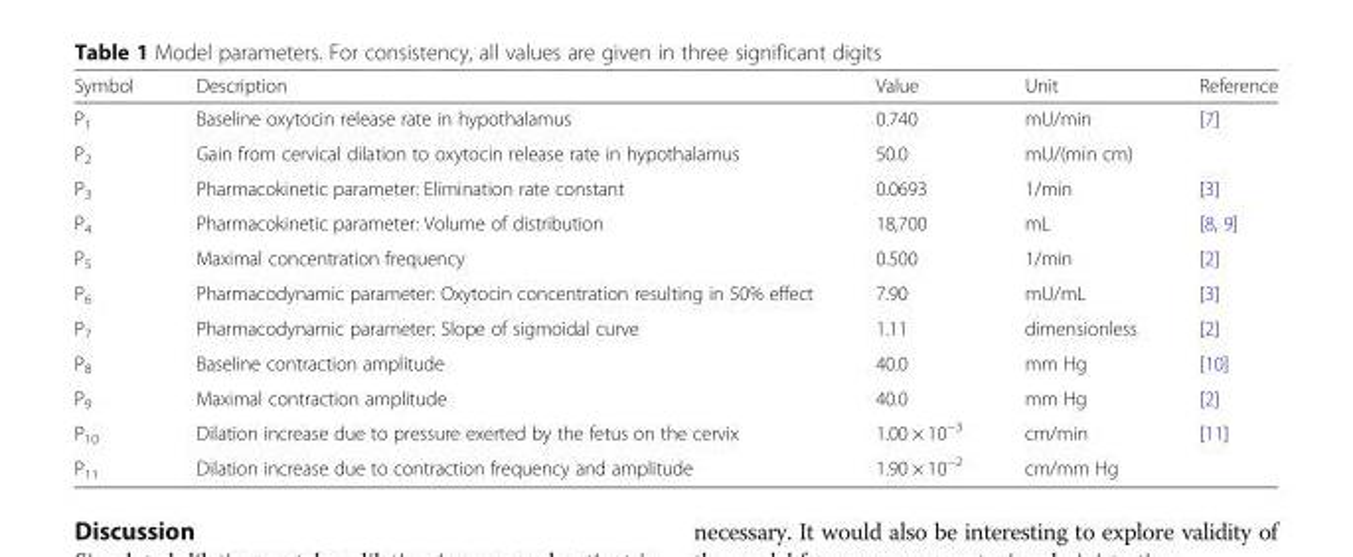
<table><thead><tr><td>Symbol</td><td>Description</td><td>Value</td><td>Unit</td><td>Reference</td></tr></thead><tbody><tr><td>P<sub>1</sub></td><td>Baseline oxytocin release rate in hypothalamus</td><td>0.740</td><td>mU/min</td><td>[7]</td></tr><tr><td>P<sub>2</sub></td><td>Gain from cervical dilation to oxytocin release rate in hypothalamus</td><td>50.0</td><td>mU/(min cm)</td><td></td></tr><tr><td>P<sub>3</sub></td><td>Pharmacokinetic parameter: Elimination rate constant</td><td>0.0693</td><td>1/min</td><td>[3]</td></tr><tr><td>P<sub>4</sub></td><td>Pharmacokinetic parameter: Volume of distribution</td><td>18,700</td><td>mL</td><td>[8, 9]</td></tr><tr><td>P<sub>5</sub></td><td>Maximal concentration frequency</td><td>0.500</td><td>1/min</td><td>[2]</td></tr><tr><td>P<sub>6</sub></td><td>Pharmacodynamic parameter: Oxytocin concentration resulting in 50% effect</td><td>7.90</td><td>mU/mL</td><td>[3]</td></tr><tr><td>P<sub>7</sub></td><td>Pharmacodynamic parameter: Slope of sigmoidal curve</td><td>1.11</td><td>dimensionless</td><td>[2]</td></tr><tr><td>P<sub>8</sub></td><td>Baseline contraction amplitude</td><td>40.0</td><td>mm Hg</td><td>[10]</td></tr><tr><td>P<sub>9</sub></td><td>Maximal contraction amplitude</td><td>40.0</td><td>mm Hg</td><td>[2]</td></tr><tr><td>P<sub>10</sub></td><td>Dilation increase due to pressure exerted by the fetus on the cervix</td><td>1.00 × 10<sup>−3</sup></td><td>cm/min</td><td>[11]</td></tr><tr><td>P<sub>11</sub></td><td>Dilation increase due to contraction frequency and amplitude</td><td>1.90 × 10<sup>−2</sup></td><td>cm/mm Hg</td><td></td></tr></tbody></table>